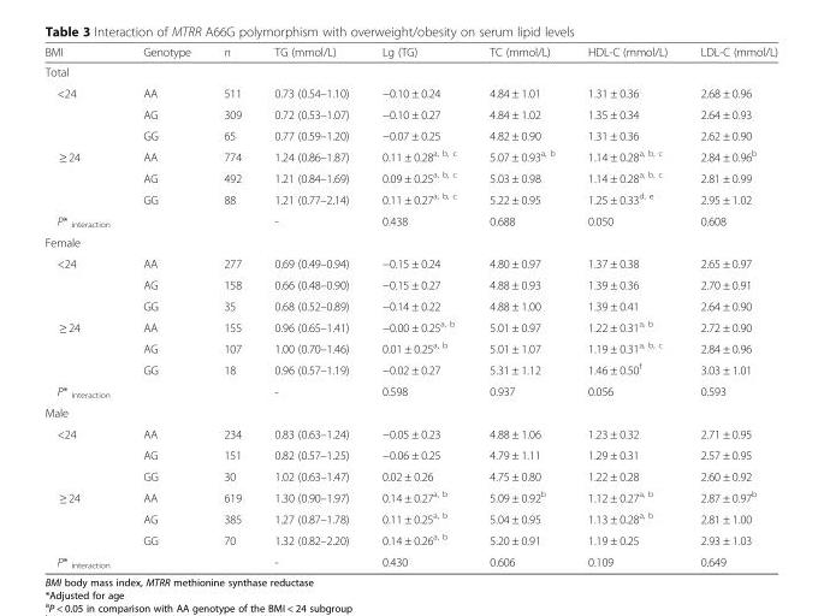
<table><thead><tr><td>BMI</td><td>Genotype</td><td>n</td><td>TG (mmol/L)</td><td>Lg (TG)</td><td>TC (mmol/L)</td><td>HDL-C (mmol/L)</td><td>LDL-C (mmol/L)</td></tr></thead><tbody><tr><td colspan="8">Total</td></tr><tr><td rowspan="3">&lt;24</td><td>AA</td><td>511</td><td>0.73 (0.54–1.10)</td><td>−0.10 ± 0.24</td><td>4.84 ± 1.01</td><td>1.31 ± 0.36</td><td>2.68 ± 0.96</td></tr><tr><td>AG</td><td>309</td><td>0.72 (0.53–1.07)</td><td>−0.10 ± 0.27</td><td>4.84 ± 1.02</td><td>1.35 ± 0.34</td><td>2.64 ± 0.93</td></tr><tr><td>GG</td><td>65</td><td>0.77 (0.59–1.20)</td><td>−0.07 ± 0.25</td><td>4.82 ± 0.90</td><td>1.31 ± 0.36</td><td>2.62 ± 0.90</td></tr><tr><td rowspan="3">≥ 24</td><td>AA</td><td>774</td><td>1.24 (0.86–1.87)</td><td>0.11 ± 0.28<sup>a, b, c</sup></td><td>5.07 ± 0.93<sup>a, b</sup></td><td>1.14 ± 0.28<sup>a, b, c</sup></td><td>2.84 ± 0.96<sup>b</sup></td></tr><tr><td>AG</td><td>492</td><td>1.21 (0.84–1.69)</td><td>0.09 ± 0.25<sup>a, b, c</sup></td><td>5.03 ± 0.98</td><td>1.14 ± 0.28<sup>a, b, c</sup></td><td>2.81 ± 0.99</td></tr><tr><td>GG</td><td>88</td><td>1.21 (0.77–2.14)</td><td>0.11 ± 0.27<sup>a, b, c</sup></td><td>5.22 ± 0.95</td><td>1.25 ± 0.33<sup>d, e</sup></td><td>2.95 ± 1.02</td></tr><tr><td>P* <sub>interaction</sub></td><td></td><td></td><td>-</td><td>0.438</td><td>0.688</td><td>0.050</td><td>0.608</td></tr><tr><td colspan="8">Female</td></tr><tr><td rowspan="3">&lt;24</td><td>AA</td><td>277</td><td>0.69 (0.49–0.94)</td><td>−0.15 ± 0.24</td><td>4.80 ± 0.97</td><td>1.37 ± 0.38</td><td>2.65 ± 0.97</td></tr><tr><td>AG</td><td>158</td><td>0.66 (0.48–0.90)</td><td>−0.15 ± 0.27</td><td>4.88 ± 0.93</td><td>1.39 ± 0.36</td><td>2.70 ± 0.91</td></tr><tr><td>GG</td><td>35</td><td>0.68 (0.52–0.89)</td><td>−0.14 ± 0.22</td><td>4.88 ± 1.00</td><td>1.39 ± 0.41</td><td>2.64 ± 0.90</td></tr><tr><td rowspan="3">≥ 24</td><td>AA</td><td>155</td><td>0.96 (0.65–1.41)</td><td>−0.00 ± 0.25<sup>a, b</sup></td><td>5.01 ± 0.97</td><td>1.22 ± 0.31<sup>a, b</sup></td><td>2.72 ± 0.90</td></tr><tr><td>AG</td><td>107</td><td>1.00 (0.70–1.46)</td><td>0.01 ± 0.25<sup>a, b</sup></td><td>5.01 ± 1.07</td><td>1.19 ± 0.31<sup>a, b, c</sup></td><td>2.84 ± 0.96</td></tr><tr><td>GG</td><td>18</td><td>0.96 (0.57–1.19)</td><td>−0.02 ± 0.27</td><td>5.31 ± 1.12</td><td>1.46 ± 0.50<sup>f</sup></td><td>3.03 ± 1.01</td></tr><tr><td>P* <sub>interaction</sub></td><td></td><td></td><td>-</td><td>0.598</td><td>0.937</td><td>0.056</td><td>0.593</td></tr><tr><td colspan="8">Male</td></tr><tr><td rowspan="3">&lt;24</td><td>AA</td><td>234</td><td>0.83 (0.63–1.24)</td><td>−0.05 ± 0.23</td><td>4.88 ± 1.06</td><td>1.23 ± 0.32</td><td>2.71 ± 0.95</td></tr><tr><td>AG</td><td>151</td><td>0.82 (0.57–1.25)</td><td>−0.06 ± 0.25</td><td>4.79 ± 1.11</td><td>1.29 ± 0.31</td><td>2.57 ± 0.95</td></tr><tr><td>GG</td><td>30</td><td>1.02 (0.63–1.47)</td><td>0.02 ± 0.26</td><td>4.75 ± 0.80</td><td>1.22 ± 0.28</td><td>2.60 ± 0.92</td></tr><tr><td rowspan="3">≥ 24</td><td>AA</td><td>619</td><td>1.30 (0.90–1.97)</td><td>0.14 ± 0.27<sup>a, b</sup></td><td>5.09 ± 0.92<sup>b</sup></td><td>1.12 ± 0.27<sup>a, b</sup></td><td>2.87 ± 0.97<sup>b</sup></td></tr><tr><td>AG</td><td>385</td><td>1.27 (0.87–1.78)</td><td>0.11 ± 0.25<sup>a, b</sup></td><td>5.04 ± 0.95</td><td>1.13 ± 0.28<sup>a, b</sup></td><td>2.81 ± 1.00</td></tr><tr><td>GG</td><td>70</td><td>1.32 (0.82–2.20)</td><td>0.14 ± 0.26<sup>a, b</sup></td><td>5.20 ± 0.91</td><td>1.19 ± 0.25</td><td>2.93 ± 1.03</td></tr><tr><td>P* <sub>interaction</sub></td><td></td><td></td><td>-</td><td>0.430</td><td>0.606</td><td>0.109</td><td>0.649</td></tr></tbody></table>